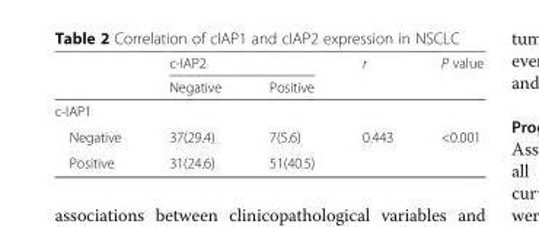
<table><thead><tr><td rowspan="2"></td><td colspan="2">c-IAP2</td><td rowspan="2">r</td><td rowspan="2">P value</td></tr><tr><td>Negative</td><td>Positive</td></tr></thead><tbody><tr><td colspan="5">c-IAP1</td></tr><tr><td>Negative</td><td>37(29.4)</td><td>7(5.6)</td><td>0.443</td><td>&lt;0.001</td></tr><tr><td>Positive</td><td>31(24.6)</td><td>51(40.5)</td><td></td><td></td></tr></tbody></table>